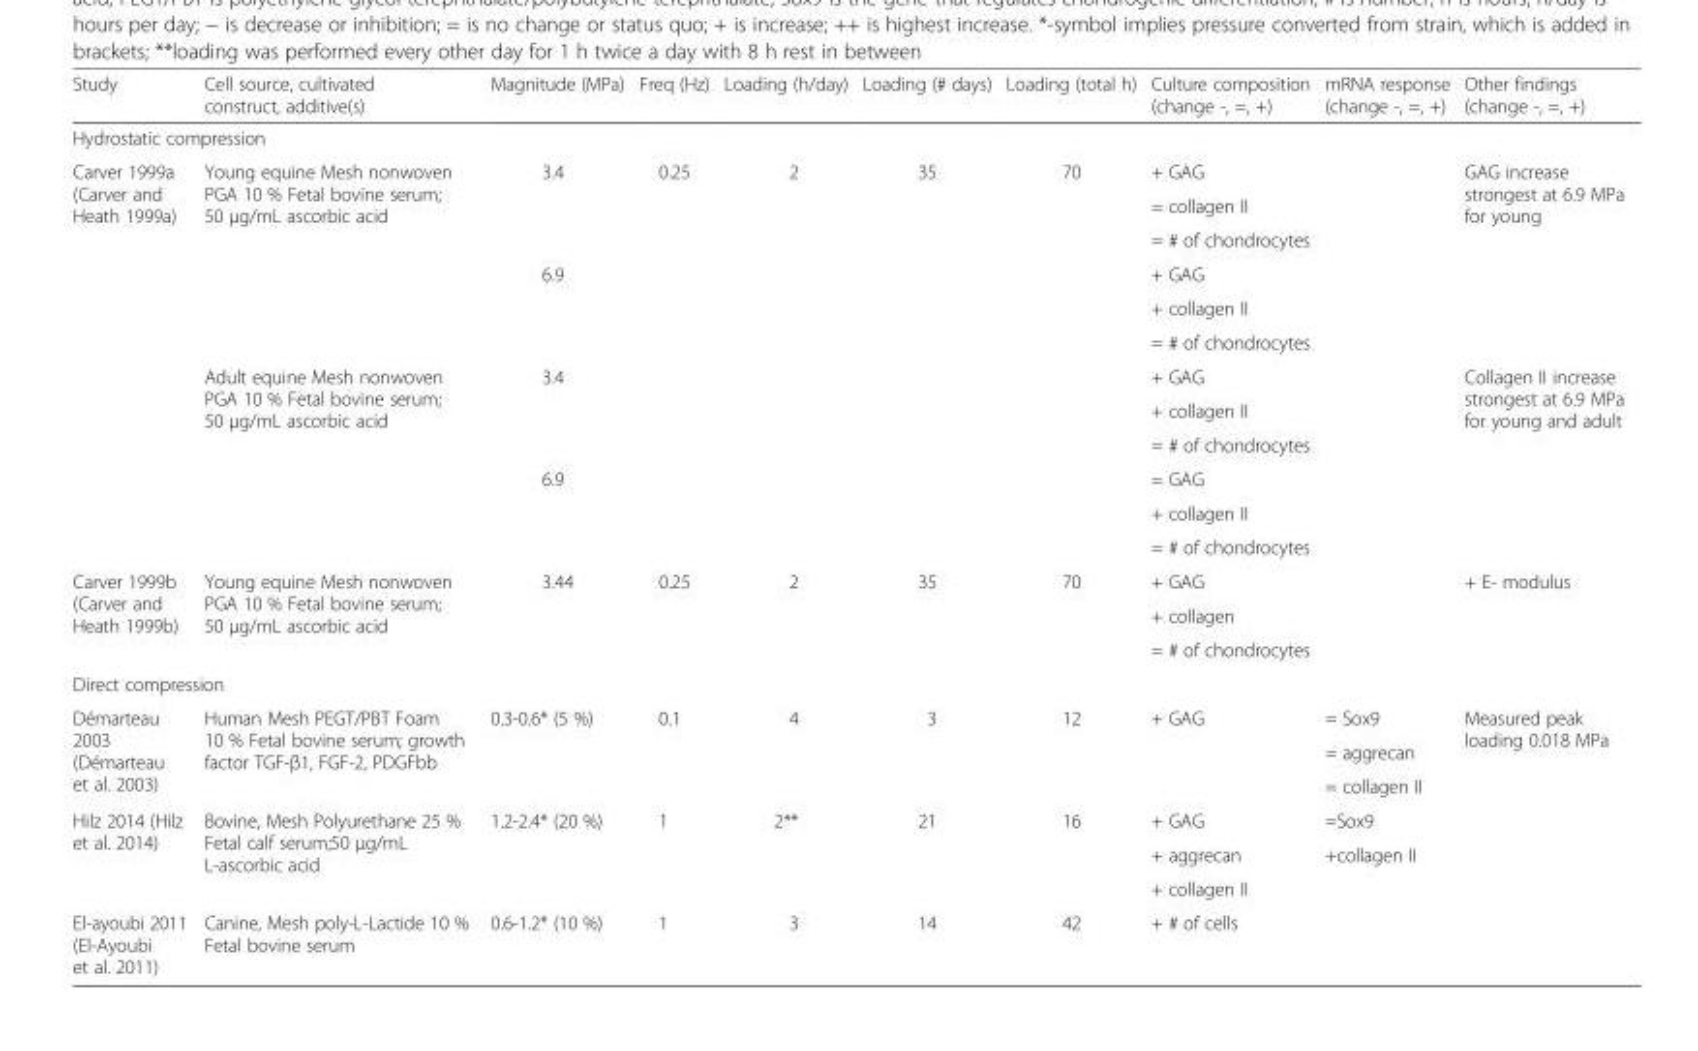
<table><thead><tr><td>Study</td><td>Cell source, cultivated construct, additive(s)</td><td>Magnitude (MPa)</td><td>Freq (Hz)</td><td>Loading (h/day)</td><td>Loading (# days)</td><td>Loading (total h)</td><td>Culture composition (change -, =, +)</td><td>mRNA response (change -, =, +)</td><td>Other findings (change -, =, +)</td></tr></thead><tbody><tr><td colspan="10">Hydrostatic compression</td></tr><tr><td rowspan="12">Carver 1999a (Carver and Heath 1999a)</td><td rowspan="6">Young equine Mesh nonwoven PGA 10 % Fetal bovine serum; 50 μg/mL ascorbic acid</td><td rowspan="3">3.4</td><td rowspan="12">0.25</td><td rowspan="12">2</td><td rowspan="12">35</td><td rowspan="12">70</td><td>+ GAG</td><td rowspan="3"></td><td rowspan="6">GAG increase strongest at 6.9 MPa for young</td></tr><tr><td>= collagen II</td></tr><tr><td>= # of chondrocytes</td></tr><tr><td rowspan="3">6.9</td><td>+ GAG</td><td rowspan="3"></td></tr><tr><td>+ collagen II</td></tr><tr><td>= # of chondrocytes</td></tr><tr><td rowspan="6">Adult equine Mesh nonwoven PGA 10 % Fetal bovine serum; 50 μg/mL ascorbic acid</td><td rowspan="3">3.4</td><td>+ GAG</td><td rowspan="3"></td><td rowspan="6">Collagen II increase strongest at 6.9 MPa for young and adult</td></tr><tr><td>+ collagen II</td></tr><tr><td>= # of chondrocytes</td></tr><tr><td rowspan="3">6.9</td><td>= GAG</td><td rowspan="3"></td></tr><tr><td>+ collagen II</td></tr><tr><td>= # of chondrocytes</td></tr><tr><td rowspan="3">Carver 1999b (Carver and Heath 1999b)</td><td rowspan="3">Young equine Mesh nonwoven PGA 10 % Fetal bovine serum; 50 μg/mL ascorbic acid</td><td rowspan="3">3.44</td><td rowspan="3">0.25</td><td rowspan="3">2</td><td rowspan="3">35</td><td rowspan="3">70</td><td>+ GAG</td><td rowspan="3"></td><td rowspan="3">+ E- modulus</td></tr><tr><td>+ collagen</td></tr><tr><td>= # of chondrocytes</td></tr><tr><td colspan="10">Direct compression</td></tr><tr><td rowspan="3">Démarteau 2003 (Démarteau et al. 2003)</td><td rowspan="3">Human Mesh PEGT/PBT Foam 10 % Fetal bovine serum; growth factor TGF-β1, FGF-2, PDGFbb</td><td rowspan="3">0.3-0.6* (5 %)</td><td rowspan="3">0.1</td><td rowspan="3">4</td><td rowspan="3">3</td><td rowspan="3">12</td><td rowspan="3">+ GAG</td><td>= Sox9</td><td rowspan="3">Measured peak loading 0.018 MPa</td></tr><tr><td>= aggrecan</td></tr><tr><td>= collagen II</td></tr><tr><td rowspan="3">Hilz 2014 (Hilz et al. 2014)</td><td rowspan="3">Bovine, Mesh Polyurethane 25 % Fetal calf serum;50 μg/mL L-ascorbic acid</td><td rowspan="3">1.2-2.4* (20 %)</td><td rowspan="3">1</td><td rowspan="3">2**</td><td rowspan="3">21</td><td rowspan="3">16</td><td>+ GAG</td><td>=Sox9</td><td rowspan="3"></td></tr><tr><td>+ aggrecan</td><td rowspan="2">+collagen II</td></tr><tr><td>+ collagen II</td></tr><tr><td>El-ayoubi 2011 (El-Ayoubi et al. 2011)</td><td>Canine, Mesh poly-L-Lactide 10 % Fetal bovine serum</td><td>0.6-1.2* (10 %)</td><td>1</td><td>3</td><td>14</td><td>42</td><td>+ # of cells</td><td></td><td></td></tr></tbody></table>